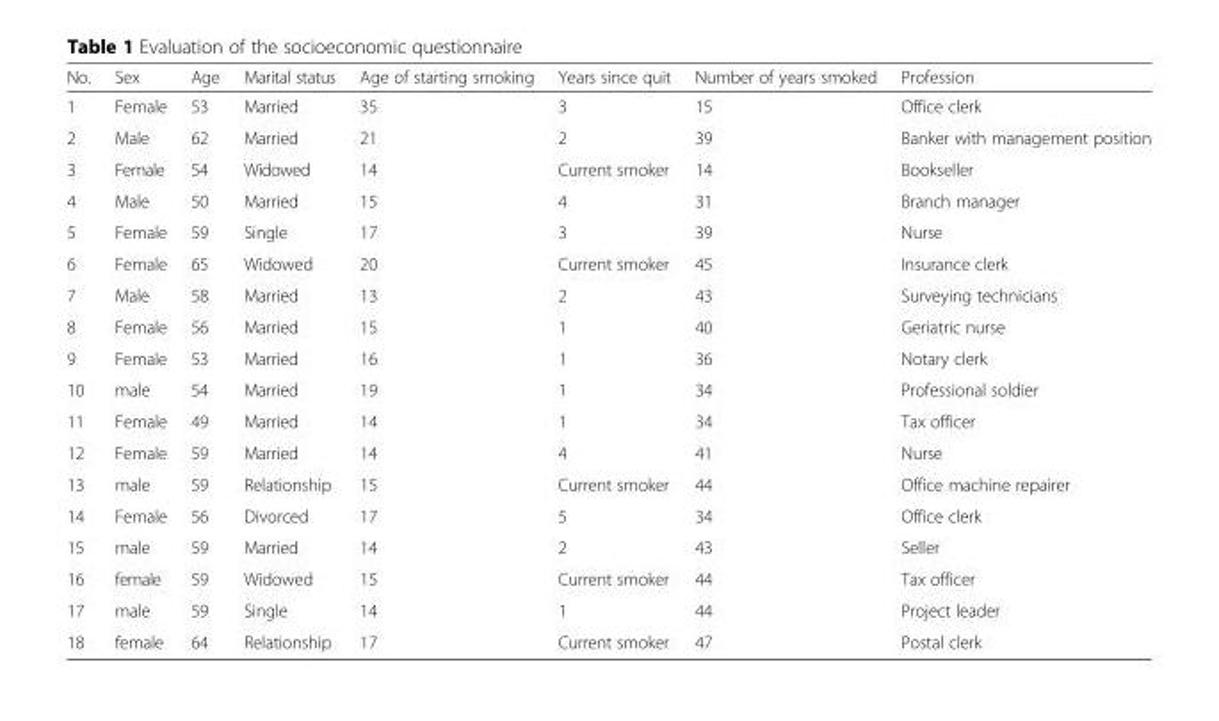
<table><thead><tr><td>No.</td><td>Sex</td><td>Age</td><td>Marital status</td><td>Age of starting smoking</td><td>Years since quit</td><td>Number of years smoked</td><td>Profession</td></tr></thead><tbody><tr><td>1</td><td>Female</td><td>53</td><td>Married</td><td>35</td><td>3</td><td>15</td><td>Office clerk</td></tr><tr><td>2</td><td>Male</td><td>62</td><td>Married</td><td>21</td><td>2</td><td>39</td><td>Banker with management position</td></tr><tr><td>3</td><td>Female</td><td>54</td><td>Widowed</td><td>14</td><td>Current smoker</td><td>14</td><td>Bookseller</td></tr><tr><td>4</td><td>Male</td><td>50</td><td>Married</td><td>15</td><td>4</td><td>31</td><td>Branch manager</td></tr><tr><td>5</td><td>Female</td><td>59</td><td>Single</td><td>17</td><td>3</td><td>39</td><td>Nurse</td></tr><tr><td>6</td><td>Female</td><td>65</td><td>Widowed</td><td>20</td><td>Current smoker</td><td>45</td><td>Insurance clerk</td></tr><tr><td>7</td><td>Male</td><td>58</td><td>Married</td><td>13</td><td>2</td><td>43</td><td>Surveying technicians</td></tr><tr><td>8</td><td>Female</td><td>56</td><td>Married</td><td>15</td><td>1</td><td>40</td><td>Geriatric nurse</td></tr><tr><td>9</td><td>Female</td><td>53</td><td>Married</td><td>16</td><td>1</td><td>36</td><td>Notary clerk</td></tr><tr><td>10</td><td>male</td><td>54</td><td>Married</td><td>19</td><td>1</td><td>34</td><td>Professional soldier</td></tr><tr><td>11</td><td>Female</td><td>49</td><td>Married</td><td>14</td><td>1</td><td>34</td><td>Tax officer</td></tr><tr><td>12</td><td>Female</td><td>59</td><td>Married</td><td>14</td><td>4</td><td>41</td><td>Nurse</td></tr><tr><td>13</td><td>male</td><td>59</td><td>Relationship</td><td>15</td><td>Current smoker</td><td>44</td><td>Office machine repairer</td></tr><tr><td>14</td><td>Female</td><td>56</td><td>Divorced</td><td>17</td><td>5</td><td>34</td><td>Office clerk</td></tr><tr><td>15</td><td>male</td><td>59</td><td>Married</td><td>14</td><td>2</td><td>43</td><td>Seller</td></tr><tr><td>16</td><td>female</td><td>59</td><td>Widowed</td><td>15</td><td>Current smoker</td><td>44</td><td>Tax officer</td></tr><tr><td>17</td><td>male</td><td>59</td><td>Single</td><td>14</td><td>1</td><td>44</td><td>Project leader</td></tr><tr><td>18</td><td>female</td><td>64</td><td>Relationship</td><td>17</td><td>Current smoker</td><td>47</td><td>Postal clerk</td></tr></tbody></table>